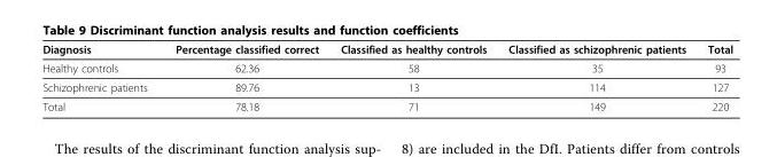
<table><thead><tr><td>Diagnosis</td><td>Percentage classified correct</td><td>Classified as healthy controls</td><td>Classified as schizophrenic patients</td><td>Total</td></tr></thead><tbody><tr><td>Healthy controls</td><td>62.36</td><td>58</td><td>35</td><td>93</td></tr><tr><td>Schizophrenic patients</td><td>89.76</td><td>13</td><td>114</td><td>127</td></tr><tr><td>Total</td><td>78.18</td><td>71</td><td>149</td><td>220</td></tr></tbody></table>